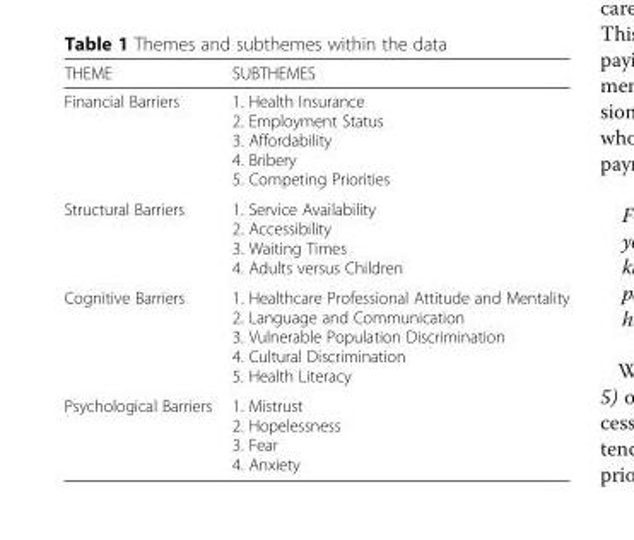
<table><thead><tr><td>THEME</td><td>SUBTHEMES</td></tr></thead><tbody><tr><td>Financial Barriers</td><td>1. Health Insurance 2. Employment Status 3. Affordability 4. Bribery 5. Competing Priorities</td></tr><tr><td>Structural Barriers</td><td>1. Service Availability 2. Accessibility 3. Waiting Times 4. Adults versus Children</td></tr><tr><td>Cognitive Barriers</td><td>1. Healthcare Professional Attitude and Mentality 2. Language and Communication 3. Vulnerable Population Discrimination 4. Cultural Discrimination 5. Health Literacy</td></tr><tr><td>Psychological Barriers</td><td>1. Mistrust 2. Hopelessness 3. Fear 4. Anxiety</td></tr></tbody></table>